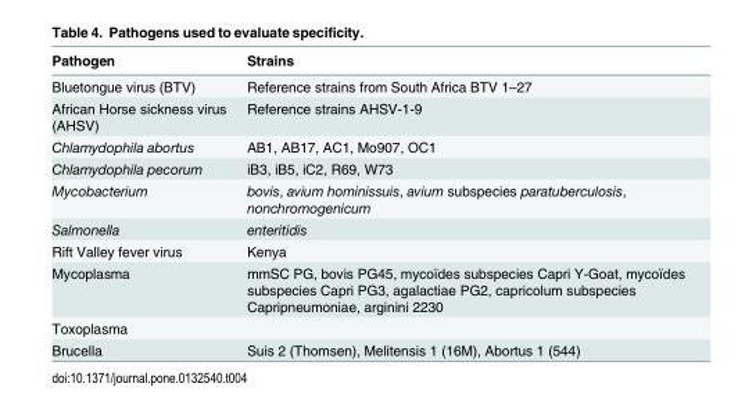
<table><thead><tr><td>Pathogen</td><td>Strains</td></tr></thead><tbody><tr><td>Bluetongue virus (BTV)</td><td>Reference strains from South Africa BTV 1–27</td></tr><tr><td>African Horse sickness virus (AHSV)</td><td>Reference strains AHSV-1-9</td></tr><tr><td>Chlamydophila abortus</td><td>AB1, AB17, AC1, Mo907, OC1</td></tr><tr><td>Chlamydophila pecorum</td><td>iB3, iB5, iC2, R69, W73</td></tr><tr><td>Mycobacterium</td><td>bovis, avium hominissuis, avium subspecies paratuberculosis, nonchromogenicum</td></tr><tr><td>Salmonella</td><td>enteritidis</td></tr><tr><td>Rift Valley fever virus</td><td>Kenya</td></tr><tr><td>Mycoplasma</td><td>mmSC PG, bovis PG45, mycoïdes subspecies Capri Y-Goat, mycoïdes subspecies Capri PG3, agalactiae PG2, capricolum subspecies Capripneumoniae, arginini 2230</td></tr><tr><td colspan="2">Toxoplasma</td></tr><tr><td>Brucella</td><td>Suis 2 (Thomsen), Melitensis 1 (16M), Abortus 1 (544)</td></tr></tbody></table>